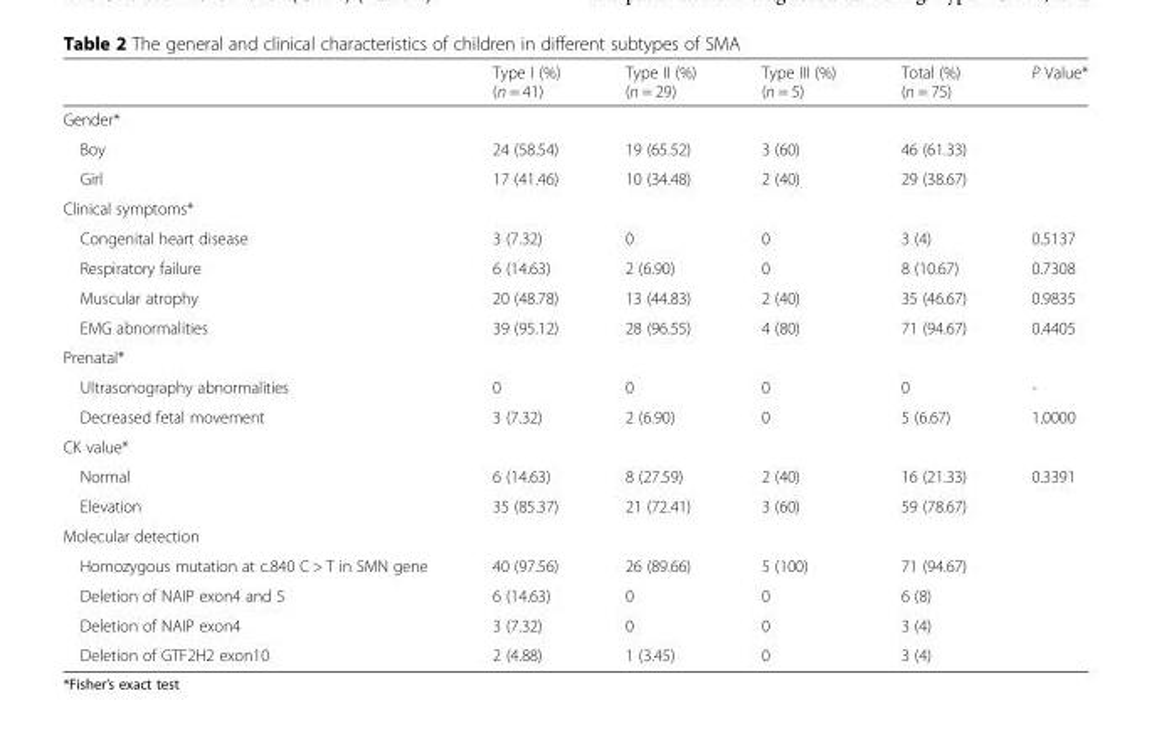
<table><thead><tr><td></td><td>Type I (%) (n = 41)</td><td>Type II (%) (n = 29)</td><td>Type III (%) (n = 5)</td><td>Total (%) (n = 75)</td><td>P Value*</td></tr></thead><tbody><tr><td colspan="6">Gender*</td></tr><tr><td>Boy</td><td>24 (58.54)</td><td>19 (65.52)</td><td>3 (60)</td><td>46 (61.33)</td><td></td></tr><tr><td>Girl</td><td>17 (41.46)</td><td>10 (34.48)</td><td>2 (40)</td><td>29 (38.67)</td><td></td></tr><tr><td colspan="6">Clinical symptoms*</td></tr><tr><td>Congenital heart disease</td><td>3 (7.32)</td><td>0</td><td>0</td><td>3 (4)</td><td>0.5137</td></tr><tr><td>Respiratory failure</td><td>6 (14.63)</td><td>2 (6.90)</td><td>0</td><td>8 (10.67)</td><td>0.7308</td></tr><tr><td>Muscular atrophy</td><td>20 (48.78)</td><td>13 (44.83)</td><td>2 (40)</td><td>35 (46.67)</td><td>0.9835</td></tr><tr><td>EMG abnormalities</td><td>39 (95.12)</td><td>28 (96.55)</td><td>4 (80)</td><td>71 (94.67)</td><td>0.4405</td></tr><tr><td colspan="6">Prenatal*</td></tr><tr><td>Ultrasonography abnormalities</td><td>0</td><td>0</td><td>0</td><td>0</td><td>-</td></tr><tr><td>Decreased fetal movement</td><td>3 (7.32)</td><td>2 (6.90)</td><td>0</td><td>5 (6.67)</td><td>1.0000</td></tr><tr><td colspan="6">CK value*</td></tr><tr><td>Normal</td><td>6 (14.63)</td><td>8 (27.59)</td><td>2 (40)</td><td>16 (21.33)</td><td>0.3391</td></tr><tr><td>Elevation</td><td>35 (85.37)</td><td>21 (72.41)</td><td>3 (60)</td><td>59 (78.67)</td><td></td></tr><tr><td colspan="6">Molecular detection</td></tr><tr><td>Homozygous mutation at c.840 C &gt; T in SMN gene</td><td>40 (97.56)</td><td>26 (89.66)</td><td>5 (100)</td><td>71 (94.67)</td><td></td></tr><tr><td>Deletion of NAIP exon4 and 5</td><td>6 (14.63)</td><td>0</td><td>0</td><td>6 (8)</td><td></td></tr><tr><td>Deletion of NAIP exon4</td><td>3 (7.32)</td><td>0</td><td>0</td><td>3 (4)</td><td></td></tr><tr><td>Deletion of GTF2H2 exon10</td><td>2 (4.88)</td><td>1 (3.45)</td><td>0</td><td>3 (4)</td><td></td></tr></tbody></table>